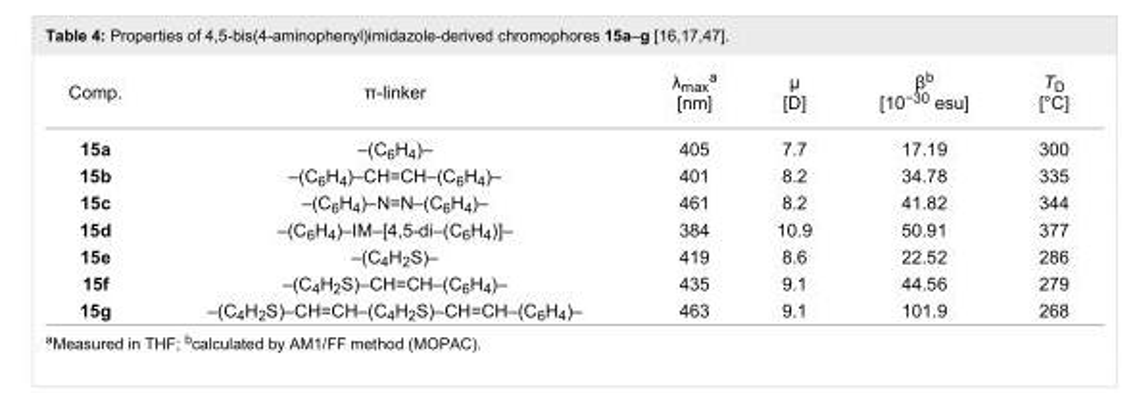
<table><tbody><tr><td>Comp.</td><td>π-linker</td><td>λ<sub>max</sub><sup>a</sup> [nm]</td><td>μ [D]</td><td>β<sup>b</sup> [10<sup>−30</sup> esu]</td><td>T<sub>D</sub> [°C]</td></tr><tr><td>15a</td><td>–(C<sub>6</sub>H<sub>4</sub>)–</td><td>405</td><td>7.7</td><td>17.19</td><td>300</td></tr><tr><td>15b</td><td>–(C<sub>6</sub>H<sub>4</sub>)–CH=CH–(C<sub>6</sub>H<sub>4</sub>)–</td><td>401</td><td>8.2</td><td>34.78</td><td>335</td></tr><tr><td>15c</td><td>–(C<sub>6</sub>H<sub>4</sub>)–N=N–(C<sub>6</sub>H<sub>4</sub>)–</td><td>461</td><td>8.2</td><td>41.82</td><td>344</td></tr><tr><td>15d</td><td>–(C<sub>6</sub>H<sub>4</sub>)–IM–[4,5-di–(C<sub>6</sub>H<sub>4</sub>)]–</td><td>384</td><td>10.9</td><td>50.91</td><td>377</td></tr><tr><td>15e</td><td>–(C<sub>4</sub>H<sub>2</sub>S)–</td><td>419</td><td>8.6</td><td>22.52</td><td>286</td></tr><tr><td>15f</td><td>–(C<sub>4</sub>H<sub>2</sub>S)–CH=CH–(C<sub>6</sub>H<sub>4</sub>)–</td><td>435</td><td>9.1</td><td>44.56</td><td>279</td></tr><tr><td>15g</td><td>–(C<sub>4</sub>H<sub>2</sub>S)–CH=CH–(C<sub>4</sub>H<sub>2</sub>S)–CH=CH–(C<sub>6</sub>H<sub>4</sub>)–</td><td>463</td><td>9.1</td><td>101.9</td><td>268</td></tr></tbody></table>